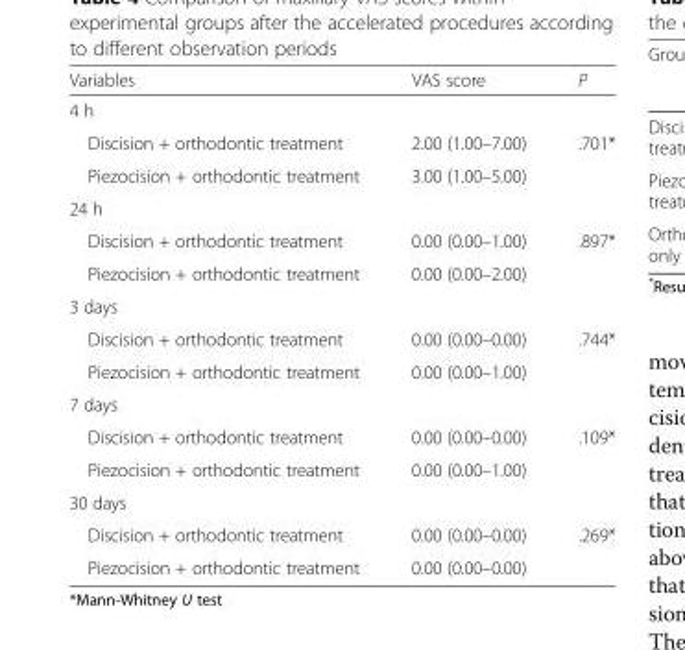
<table><thead><tr><td>Variables</td><td>VAS score</td><td>P</td></tr></thead><tbody><tr><td colspan="3">4 h</td></tr><tr><td>Discision + orthodontic treatment</td><td>2.00 (1.00–7.00)</td><td rowspan="2">.701*</td></tr><tr><td>Piezocision + orthodontic treatment</td><td>3.00 (1.00–5.00)</td></tr><tr><td colspan="3">24 h</td></tr><tr><td>Discision + orthodontic treatment</td><td>0.00 (0.00–1.00)</td><td rowspan="2">.897*</td></tr><tr><td>Piezocision + orthodontic treatment</td><td>0.00 (0.00–2.00)</td></tr><tr><td colspan="3">3 days</td></tr><tr><td>Discision + orthodontic treatment</td><td>0.00 (0.00–0.00)</td><td rowspan="2">.744*</td></tr><tr><td>Piezocision + orthodontic treatment</td><td>0.00 (0.00–1.00)</td></tr><tr><td colspan="3">7 days</td></tr><tr><td>Discision + orthodontic treatment</td><td>0.00 (0.00–0.00)</td><td rowspan="2">.109*</td></tr><tr><td>Piezocision + orthodontic treatment</td><td>0.00 (0.00–1.00)</td></tr><tr><td colspan="3">30 days</td></tr><tr><td>Discision + orthodontic treatment</td><td>0.00 (0.00–0.00)</td><td rowspan="2">.269*</td></tr><tr><td>Piezocision + orthodontic treatment</td><td>0.00 (0.00–0.00)</td></tr></tbody></table>